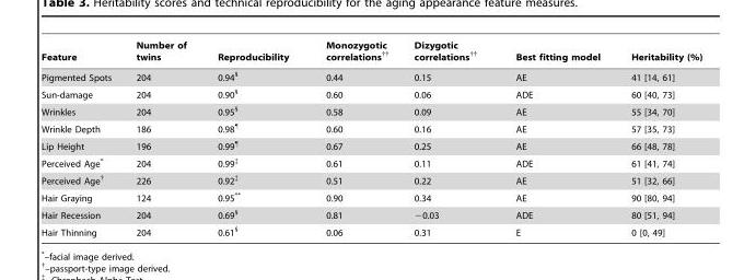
<table><thead><tr><td>Feature</td><td>Number of twins</td><td>Reproducibility</td><td>Monozygotic correlations††</td><td>Dizygotic correlations††</td><td>Best fitting model</td><td>Heritability (%)</td></tr></thead><tbody><tr><td>Pigmented Spots</td><td>204</td><td>0.94§</td><td>0.44</td><td>0.15</td><td>AE</td><td>41 [14, 61]</td></tr><tr><td>Sun-damage</td><td>204</td><td>0.90§</td><td>0.60</td><td>0.06</td><td>ADE</td><td>60 [40, 73]</td></tr><tr><td>Wrinkles</td><td>204</td><td>0.95§</td><td>0.58</td><td>0.09</td><td>AE</td><td>55 [34, 70]</td></tr><tr><td>Wrinkle Depth</td><td>186</td><td>0.98¶</td><td>0.60</td><td>0.16</td><td>AE</td><td>57 [35, 73]</td></tr><tr><td>Lip Height</td><td>196</td><td>0.99¶</td><td>0.67</td><td>0.25</td><td>AE</td><td>66 [48, 78]</td></tr><tr><td>Perceived Age*</td><td>204</td><td>0.99‡</td><td>0.61</td><td>0.11</td><td>ADE</td><td>61 [41, 74]</td></tr><tr><td>Perceived Age†</td><td>226</td><td>0.92‡</td><td>0.51</td><td>0.22</td><td>AE</td><td>51 [32, 66]</td></tr><tr><td>Hair Graying</td><td>124</td><td>0.95**</td><td>0.90</td><td>0.34</td><td>AE</td><td>90 [80, 94]</td></tr><tr><td>Hair Recession</td><td>204</td><td>0.69§</td><td>0.81</td><td>−0.03</td><td>ADE</td><td>80 [51, 94]</td></tr><tr><td>Hair Thinning</td><td>204</td><td>0.61§</td><td>0.06</td><td>0.31</td><td>E</td><td>0 [0, 49]</td></tr></tbody></table>